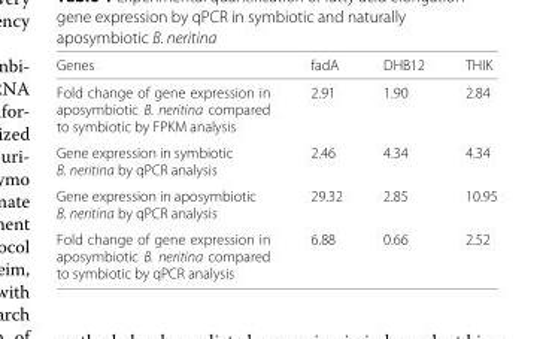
<table><thead><tr><td>Genes</td><td>fadA</td><td>DHB12</td><td>THIK</td></tr></thead><tbody><tr><td>Fold change of gene expression in aposymbiotic B. neritina compared to symbiotic by FPKM analysis</td><td>2.91</td><td>1.90</td><td>2.84</td></tr><tr><td>Gene expression in symbiotic B. neritina by qPCR analysis</td><td>2.46</td><td>4.34</td><td>4.34</td></tr><tr><td>Gene expression in aposymbiotic B. neritina by qPCR analysis</td><td>29.32</td><td>2.85</td><td>10.95</td></tr><tr><td>Fold change of gene expression in aposymbiotic B. neritina compared to symbiotic by qPCR analysis</td><td>6.88</td><td>0.66</td><td>2.52</td></tr></tbody></table>